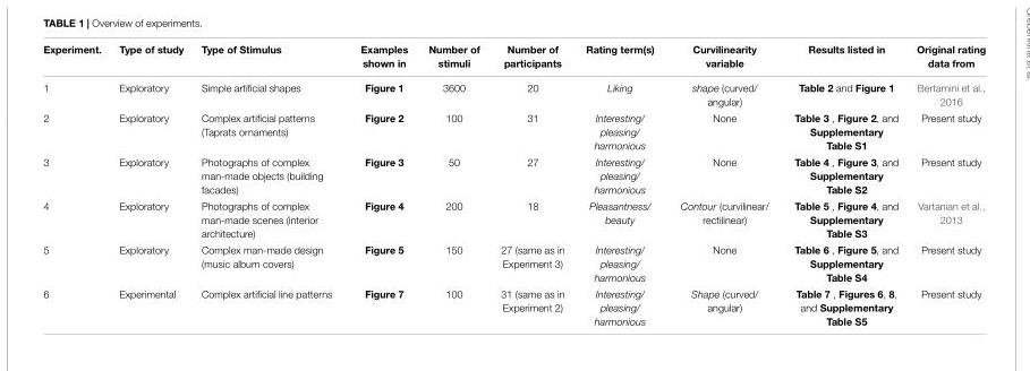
<table><thead><tr><td>Experiment.</td><td>Type of study</td><td>Type of Stimulus</td><td>Examples shown in</td><td>Number of stimuli</td><td>Number of participants</td><td>Rating term(s)</td><td>Curvilinearity variable</td><td>Results listed in</td><td>Original rating data from</td></tr></thead><tbody><tr><td>1</td><td>Exploratory</td><td>Simple artificial shapes</td><td>Figure 1</td><td>3600</td><td>20</td><td>Liking</td><td>shape (curved/ angular)</td><td>Table 2 and Figure 1</td><td>Bertamini et al., 2016</td></tr><tr><td>2</td><td>Exploratory</td><td>Complex artificial patterns (Taprats ornaments)</td><td>Figure 2</td><td>100</td><td>31</td><td>Interesting/ pleasing/ harmonious</td><td>None</td><td>Table 3 , Figure 2, and Supplementary Table S1</td><td>Present study</td></tr><tr><td>3</td><td>Exploratory</td><td>Photographs of complex man-made objects (building facades)</td><td>Figure 3</td><td>50</td><td>27</td><td>Interesting/ pleasing/ harmonious</td><td>None</td><td>Table 4 , Figure 3, and Supplementary Table S2</td><td>Present study</td></tr><tr><td>4</td><td>Exploratory</td><td>Photographs of complex man-made scenes (interior architecture)</td><td>Figure 4</td><td>200</td><td>18</td><td>Pleasantness/ beauty</td><td>Contour (curvilinear/ rectilinear)</td><td>Table 5 , Figure 4, and Supplementary Table S3</td><td>Vartanian et al., 2013</td></tr><tr><td>5</td><td>Exploratory</td><td>Complex man-made design (music album covers)</td><td>Figure 5</td><td>150</td><td>27 (same as in Experiment 3)</td><td>Interesting/ pleasing/ harmonious</td><td>None</td><td>Table 6 , Figure 5, and Supplementary Table S4</td><td>Present study</td></tr><tr><td>6</td><td>Experimental</td><td>Complex artificial line patterns</td><td>Figure 7</td><td>100</td><td>31 (same as in Experiment 2)</td><td>Interesting/ pleasing/ harmonious</td><td>Shape (curved/ angular)</td><td>Table 7 , Figures 6, 8, and Supplementary Table S5</td><td>Present study</td></tr></tbody></table>